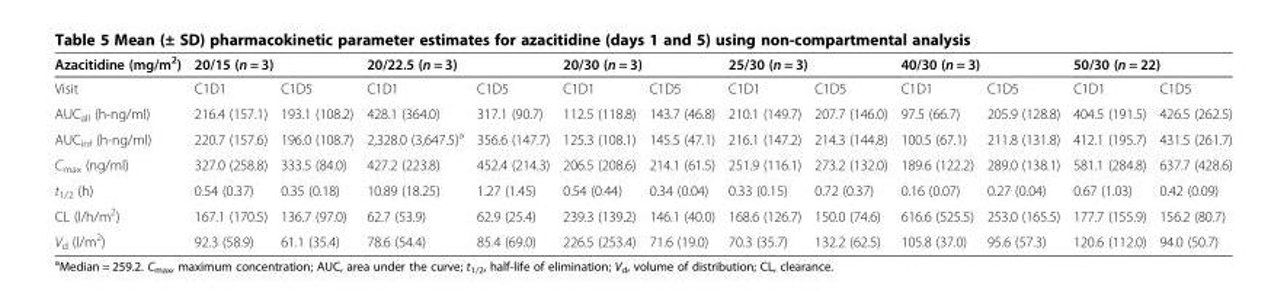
<table><thead><tr><td rowspan="2">Azacitidine (mg/m<sup>2</sup>) Visit</td><td colspan="2">20/15 (n = 3)</td><td colspan="2">20/22.5 (n = 3)</td><td colspan="2">20/30 (n = 3)</td><td colspan="2">25/30 (n = 3)</td><td colspan="2">40/30 (n = 3)</td><td colspan="2">50/30 (n = 22)</td></tr><tr><td>C1D1</td><td>C1D5</td><td>C1D1</td><td>C1D5</td><td>C1D1</td><td>C1D5</td><td>C1D1</td><td>C1D5</td><td>C1D1</td><td>C1D5</td><td>C1D1</td><td>C1D5</td></tr></thead><tbody><tr><td>AUC<sub>all</sub> (h-ng/ml)</td><td>216.4 (157.1)</td><td>193.1 (108.2)</td><td>428.1 (364.0)</td><td>317.1 (90.7)</td><td>112.5 (118.8)</td><td>143.7 (46.8)</td><td>210.1 (149.7)</td><td>207.7 (146.0)</td><td>97.5 (66.7)</td><td>205.9 (128.8)</td><td>404.5 (191.5)</td><td>426.5 (262.5)</td></tr><tr><td>AUC<sub>inf</sub> (h-ng/ml)</td><td>220.7 (157.6)</td><td>196.0 (108.7)</td><td>2,328.0 (3,647.5)<sup>a</sup></td><td>356.6 (147.7)</td><td>125.3 (108.1)</td><td>145.5 (47.1)</td><td>216.1 (147.2)</td><td>214.3 (144.8)</td><td>100.5 (67.1)</td><td>211.8 (131.8)</td><td>412.1 (195.7)</td><td>431.5 (261.7)</td></tr><tr><td>C<sub>max</sub> (ng/ml)</td><td>327.0 (258.8)</td><td>333.5 (84.0)</td><td>427.2 (223.8)</td><td>452.4 (214.3)</td><td>206.5 (208.6)</td><td>214.1 (61.5)</td><td>251.9 (116.1)</td><td>273.2 (132.0)</td><td>189.6 (122.2)</td><td>289.0 (138.1)</td><td>581.1 (284.8)</td><td>637.7 (428.6)</td></tr><tr><td>t<sub>1/2</sub> (h)</td><td>0.54 (0.37)</td><td>0.35 (0.18)</td><td>10.89 (18.25)</td><td>1.27 (1.45)</td><td>0.54 (0.44)</td><td>0.34 (0.04)</td><td>0.33 (0.15)</td><td>0.72 (0.37)</td><td>0.16 (0.07)</td><td>0.27 (0.04)</td><td>0.67 (1.03)</td><td>0.42 (0.09)</td></tr><tr><td>CL (l/h/m<sup>2</sup>)</td><td>167.1 (170.5)</td><td>136.7 (97.0)</td><td>62.7 (53.9)</td><td>62.9 (25.4)</td><td>239.3 (139.2)</td><td>146.1 (40.0)</td><td>168.6 (126.7)</td><td>150.0 (74.6)</td><td>616.6 (525.5)</td><td>253.0 (165.5)</td><td>177.7 (155.9)</td><td>156.2 (80.7)</td></tr><tr><td>V<sub>d</sub> (l/m<sup>2</sup>)</td><td>92.3 (58.9)</td><td>61.1 (35.4)</td><td>78.6 (54.4)</td><td>85.4 (69.0)</td><td>226.5 (253.4)</td><td>71.6 (19.0)</td><td>70.3 (35.7)</td><td>132.2 (62.5)</td><td>105.8 (37.0)</td><td>95.6 (57.3)</td><td>120.6 (112.0)</td><td>94.0 (50.7)</td></tr></tbody></table>